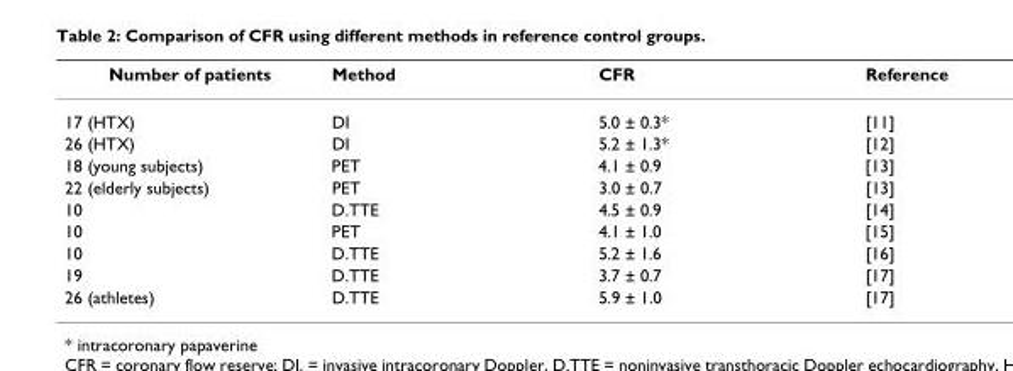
<table><thead><tr><td>Number of patients</td><td>Method</td><td>CFR</td><td>Reference</td></tr></thead><tbody><tr><td>17 (HTX)</td><td>DI</td><td>5.0 ± 0.3*</td><td>[11]</td></tr><tr><td>26 (HTX)</td><td>DI</td><td>5.2 ± 1.3*</td><td>[12]</td></tr><tr><td>18 (young subjects)</td><td>PET</td><td>4.1 ± 0.9</td><td>[13]</td></tr><tr><td>22 (elderly subjects)</td><td>PET</td><td>3.0 ± 0.7</td><td>[13]</td></tr><tr><td>10</td><td>D.TTE</td><td>4.5 ± 0.9</td><td>[14]</td></tr><tr><td>10</td><td>PET</td><td>4.1 ± 1.0</td><td>[15]</td></tr><tr><td>10</td><td>D.TTE</td><td>5.2 ± 1.6</td><td>[16]</td></tr><tr><td>19</td><td>D.TTE</td><td>3.7 ± 0.7</td><td>[17]</td></tr><tr><td>26 (athletes)</td><td>D.TTE</td><td>5.9 ± 1.0</td><td>[17]</td></tr></tbody></table>